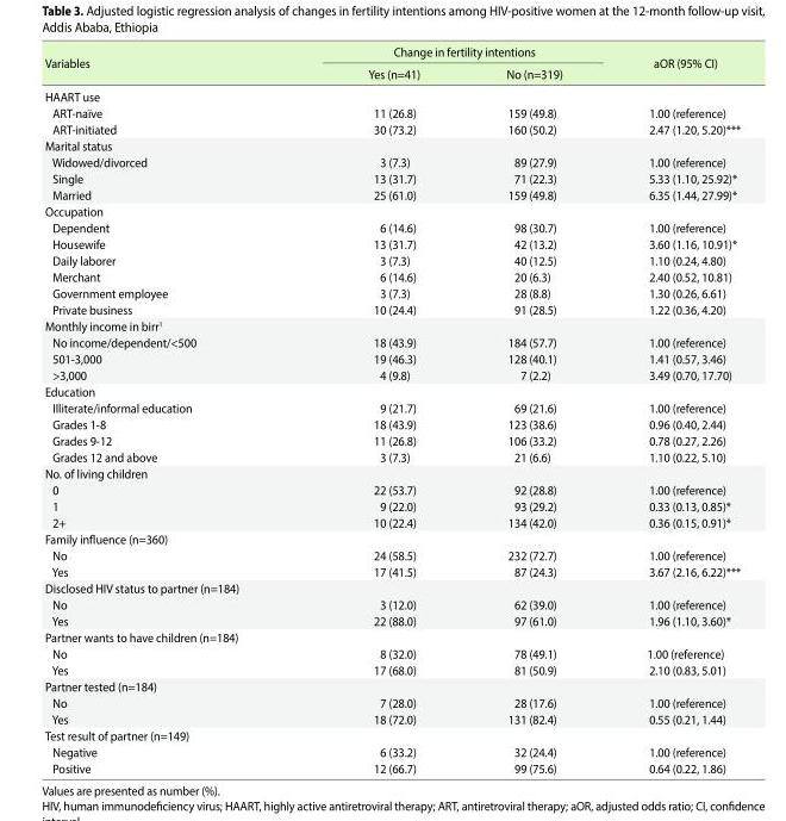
<table><thead><tr><td rowspan="2">Variables</td><td colspan="2">Change in fertility intentions</td><td rowspan="2">aOR (95% CI)</td></tr><tr><td>Yes (n=41)</td><td>No (n=319)</td></tr></thead><tbody><tr><td colspan="4">HAART use</td></tr><tr><td>ART-naïve</td><td>11 (26.8)</td><td>159 (49.8)</td><td>1.00 (reference)</td></tr><tr><td>ART-initiated</td><td>30 (73.2)</td><td>160 (50.2)</td><td>2.47 (1.20, 5.20)***</td></tr><tr><td colspan="4">Marital status</td></tr><tr><td>Widowed/divorced</td><td>3 (7.3)</td><td>89 (27.9)</td><td>1.00 (reference)</td></tr><tr><td>Single</td><td>13 (31.7)</td><td>71 (22.3)</td><td>5.33 (1.10, 25.92)*</td></tr><tr><td>Married</td><td>25 (61.0)</td><td>159 (49.8)</td><td>6.35 (1.44, 27.99)*</td></tr><tr><td colspan="4">Occupation</td></tr><tr><td>Dependent</td><td>6 (14.6)</td><td>98 (30.7)</td><td>1.00 (reference)</td></tr><tr><td>Housewife</td><td>13 (31.7)</td><td>42 (13.2)</td><td>3.60 (1.16, 10.91)*</td></tr><tr><td>Daily laborer</td><td>3 (7.3)</td><td>40 (12.5)</td><td>1.10 (0.24, 4.80)</td></tr><tr><td>Merchant</td><td>6 (14.6)</td><td>20 (6.3)</td><td>2.40 (0.52, 10.81)</td></tr><tr><td>Government employee</td><td>3 (7.3)</td><td>28 (8.8)</td><td>1.30 (0.26, 6.61)</td></tr><tr><td>Private business</td><td>10 (24.4)</td><td>91 (28.5)</td><td>1.22 (0.36, 4.20)</td></tr><tr><td colspan="4">Monthly income in birr<sup>1</sup></td></tr><tr><td>No income/dependent/&lt;500</td><td>18 (43.9)</td><td>184 (57.7)</td><td>1.00 (reference)</td></tr><tr><td>501-3,000</td><td>19 (46.3)</td><td>128 (40.1)</td><td>1.41 (0.57, 3.46)</td></tr><tr><td>&gt;3,000</td><td>4 (9.8)</td><td>7 (2.2)</td><td>3.49 (0.70, 17.70)</td></tr><tr><td colspan="4">Education</td></tr><tr><td>Illiterate/informal education</td><td>9 (21.7)</td><td>69 (21.6)</td><td>1.00 (reference)</td></tr><tr><td>Grades 1-8</td><td>18 (43.9)</td><td>123 (38.6)</td><td>0.96 (0.40, 2.44)</td></tr><tr><td>Grades 9-12</td><td>11 (26.8)</td><td>106 (33.2)</td><td>0.78 (0.27, 2.26)</td></tr><tr><td>Grades 12 and above</td><td>3 (7.3)</td><td>21 (6.6)</td><td>1.10 (0.22, 5.10)</td></tr><tr><td colspan="4">No. of living children</td></tr><tr><td>0</td><td>22 (53.7)</td><td>92 (28.8)</td><td>1.00 (reference)</td></tr><tr><td>1</td><td>9 (22.0)</td><td>93 (29.2)</td><td>0.33 (0.13, 0.85)*</td></tr><tr><td>2+</td><td>10 (22.4)</td><td>134 (42.0)</td><td>0.36 (0.15, 0.91)*</td></tr><tr><td colspan="4">Family influence (n=360)</td></tr><tr><td>No</td><td>24 (58.5)</td><td>232 (72.7)</td><td>1.00 (reference)</td></tr><tr><td>Yes</td><td>17 (41.5)</td><td>87 (24.3)</td><td>3.67 (2.16, 6.22)***</td></tr><tr><td colspan="4">Disclosed HIV status to partner (n=184)</td></tr><tr><td>No</td><td>3 (12.0)</td><td>62 (39.0)</td><td>1.00 (reference)</td></tr><tr><td>Yes</td><td>22 (88.0)</td><td>97 (61.0)</td><td>1.96 (1.10, 3.60)*</td></tr><tr><td colspan="4">Partner wants to have children (n=184)</td></tr><tr><td>No</td><td>8 (32.0)</td><td>78 (49.1)</td><td>1.00 (reference)</td></tr><tr><td>Yes</td><td>17 (68.0)</td><td>81 (50.9)</td><td>2.10 (0.83, 5.01)</td></tr><tr><td colspan="4">Partner tested (n=184)</td></tr><tr><td>No</td><td>7 (28.0)</td><td>28 (17.6)</td><td>1.00 (reference)</td></tr><tr><td>Yes</td><td>18 (72.0)</td><td>131 (82.4)</td><td>0.55 (0.21, 1.44)</td></tr><tr><td colspan="4">Test result of partner (n=149)</td></tr><tr><td>Negative</td><td>6 (33.2)</td><td>32 (24.4)</td><td>1.00 (reference)</td></tr><tr><td>Positive</td><td>12 (66.7)</td><td>99 (75.6)</td><td>0.64 (0.22, 1.86)</td></tr></tbody></table>